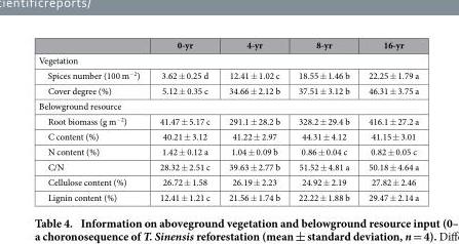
<table><thead><tr><td></td><td>0-yr</td><td>4-yr</td><td>8-yr</td><td>16-yr</td></tr></thead><tbody><tr><td colspan="5">Vegetation</td></tr><tr><td>Spices number (100 m<sup>−2</sup>)</td><td>3.62 ± 0.25 d</td><td>12.41 ± 1.02 c</td><td>18.55 ± 1.46 b</td><td>22.25 ± 1.79 a</td></tr><tr><td>Cover degree (%)</td><td>5.12 ± 0.35 c</td><td>34.66 ± 2.12 b</td><td>37.51 ± 3.12 b</td><td>46.31 ± 3.75 a</td></tr><tr><td colspan="5">Belowground resource</td></tr><tr><td>Root biomass (g m<sup>−2</sup>)</td><td>41.47 ± 5.17 c</td><td>291.1 ± 28.2 b</td><td>328.2 ± 29.4 b</td><td>416.1 ± 27.2 a</td></tr><tr><td>C content (%)</td><td>40.21 ± 3.12</td><td>41.22 ± 2.97</td><td>44.31 ± 4.12</td><td>41.15 ± 3.01</td></tr><tr><td>N content (%)</td><td>1.42 ± 0.12 a</td><td>1.04 ± 0.09 b</td><td>0.86 ± 0.04 c</td><td>0.82 ± 0.05 c</td></tr><tr><td>C/N</td><td>28.32 ± 2.51 c</td><td>39.63 ± 2.77 b</td><td>51.52 ± 4.81 a</td><td>50.18 ± 4.64 a</td></tr><tr><td>Cellulose content (%)</td><td>26.72 ± 1.58</td><td>26.19 ± 2.23</td><td>24.92 ± 2.19</td><td>27.82 ± 2.46</td></tr><tr><td>Lignin content (%)</td><td>12.41 ± 1.21 c</td><td>21.56 ± 1.74 b</td><td>22.22 ± 1.88 b</td><td>29.47 ± 2.14 a</td></tr></tbody></table>